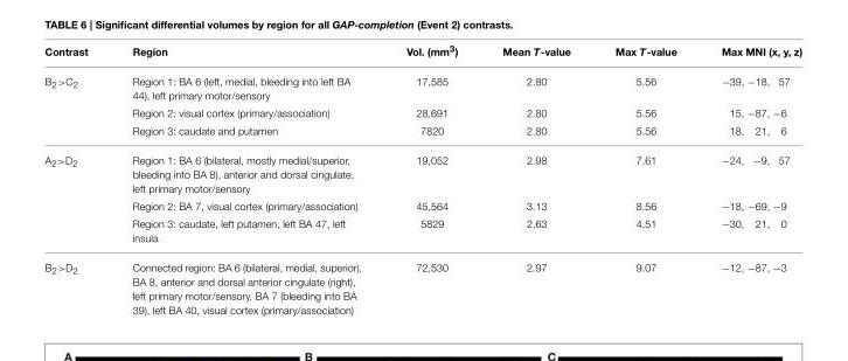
<table><thead><tr><td>Contrast</td><td>Region</td><td>Vol. (mm<sup>3</sup>)</td><td>Mean T-value</td><td>Max T-value</td><td>Max MNI (x, y, z)</td></tr></thead><tbody><tr><td rowspan="3">B<sub>2</sub>&gt;C<sub>2</sub></td><td>Region 1: BA 6 (left, medial, bleeding into left BA 44), left primary motor/sensory</td><td>17,585</td><td>2.80</td><td>5.56</td><td>−39, −18, 57</td></tr><tr><td>Region 2: visual cortex (primary/association)</td><td>28,691</td><td>2.80</td><td>5.56</td><td>15, −87, −6</td></tr><tr><td>Region 3: caudate and putamen</td><td>7820</td><td>2.80</td><td>5.56</td><td>18, 21, 6</td></tr><tr><td rowspan="3">A<sub>2</sub>&gt;D<sub>2</sub></td><td>Region 1: BA 6 (bilateral, mostly medial/superior, bleeding into BA 8), anterior and dorsal cingulate, left primary motor/sensory</td><td>19,052</td><td>2.98</td><td>7.61</td><td>−24, −9, 57</td></tr><tr><td>Region 2: BA 7, visual cortex (primary/association)</td><td>45,564</td><td>3.13</td><td>8.56</td><td>−18, −69, −9</td></tr><tr><td>Region 3: caudate, left putamen, left BA 47, left insula</td><td>5829</td><td>2.63</td><td>4.51</td><td>−30, 21, 0</td></tr><tr><td>B<sub>2</sub>&gt;D<sub>2</sub></td><td>Connected region: BA 6 (bilateral, medial, superior), BA 8, anterior and dorsal anterior cingulate (right), left primary motor/sensory, BA 7 (bleeding into BA 39), left BA 40, visual cortex (primary/association)</td><td>72,530</td><td>2.97</td><td>9.07</td><td>−12, −87, −3</td></tr></tbody></table>